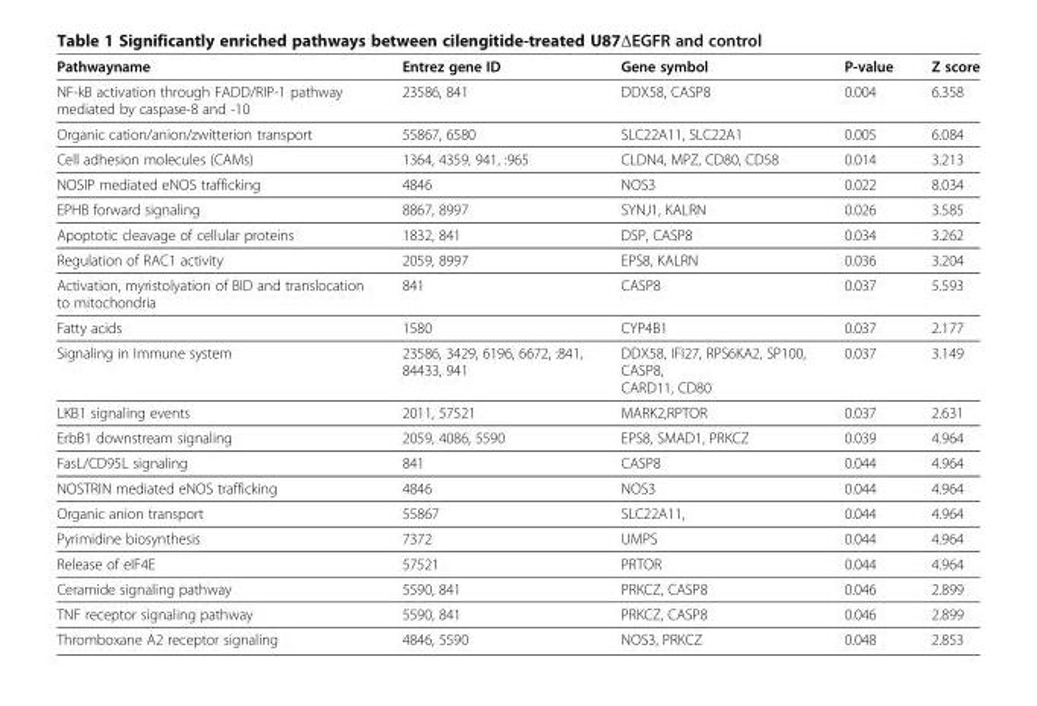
<table><thead><tr><td>Pathwayname</td><td>Entrez gene ID</td><td>Gene symbol</td><td>P-value</td><td>Z score</td></tr></thead><tbody><tr><td>NF-kB activation through FADD/RIP-1 pathway mediated by caspase-8 and -10</td><td>23586, 841</td><td>DDX58, CASP8</td><td>0.004</td><td>6.358</td></tr><tr><td>Organic cation/anion/zwitterion transport</td><td>55867, 6580</td><td>SLC22A11, SLC22A1</td><td>0.005</td><td>6.084</td></tr><tr><td>Cell adhesion molecules (CAMs)</td><td>1364, 4359, 941, :965</td><td>CLDN4, MPZ, CD80, CD58</td><td>0.014</td><td>3.213</td></tr><tr><td>NOSIP mediated eNOS trafficking</td><td>4846</td><td>NOS3</td><td>0.022</td><td>8.034</td></tr><tr><td>EPHB forward signaling</td><td>8867, 8997</td><td>SYNJ1, KALRN</td><td>0.026</td><td>3.585</td></tr><tr><td>Apoptotic cleavage of cellular proteins</td><td>1832, 841</td><td>DSP, CASP8</td><td>0.034</td><td>3.262</td></tr><tr><td>Regulation of RAC1 activity</td><td>2059, 8997</td><td>EPS8, KALRN</td><td>0.036</td><td>3.204</td></tr><tr><td>Activation, myristolyation of BID and translocation to mitochondria</td><td>841</td><td>CASP8</td><td>0.037</td><td>5.593</td></tr><tr><td>Fatty acids</td><td>1580</td><td>CYP4B1</td><td>0.037</td><td>2.177</td></tr><tr><td>Signaling in Immune system</td><td>23586, 3429, 6196, 6672, :841, 84433, 941</td><td>DDX58, IFI27, RPS6KA2, SP100, CASP8, CARD11, CD80</td><td>0.037</td><td>3.149</td></tr><tr><td>LKB1 signaling events</td><td>2011, 57521</td><td>MARK2,RPTOR</td><td>0.037</td><td>2.631</td></tr><tr><td>ErbB1 downstream signaling</td><td>2059, 4086, 5590</td><td>EPS8, SMAD1, PRKCZ</td><td>0.039</td><td>4.964</td></tr><tr><td>FasL/CD95L signaling</td><td>841</td><td>CASP8</td><td>0.044</td><td>4.964</td></tr><tr><td>NOSTRIN mediated eNOS trafficking</td><td>4846</td><td>NOS3</td><td>0.044</td><td>4.964</td></tr><tr><td>Organic anion transport</td><td>55867</td><td>SLC22A11,</td><td>0.044</td><td>4.964</td></tr><tr><td>Pyrimidine biosynthesis</td><td>7372</td><td>UMPS</td><td>0.044</td><td>4.964</td></tr><tr><td>Release of eIF4E</td><td>57521</td><td>PRTOR</td><td>0.044</td><td>4.964</td></tr><tr><td>Ceramide signaling pathway</td><td>5590, 841</td><td>PRKCZ, CASP8</td><td>0.046</td><td>2.899</td></tr><tr><td>TNF receptor signaling pathway</td><td>5590, 841</td><td>PRKCZ, CASP8</td><td>0.046</td><td>2.899</td></tr><tr><td>Thromboxane A2 receptor signaling</td><td>4846, 5590</td><td>NOS3, PRKCZ</td><td>0.048</td><td>2.853</td></tr></tbody></table>